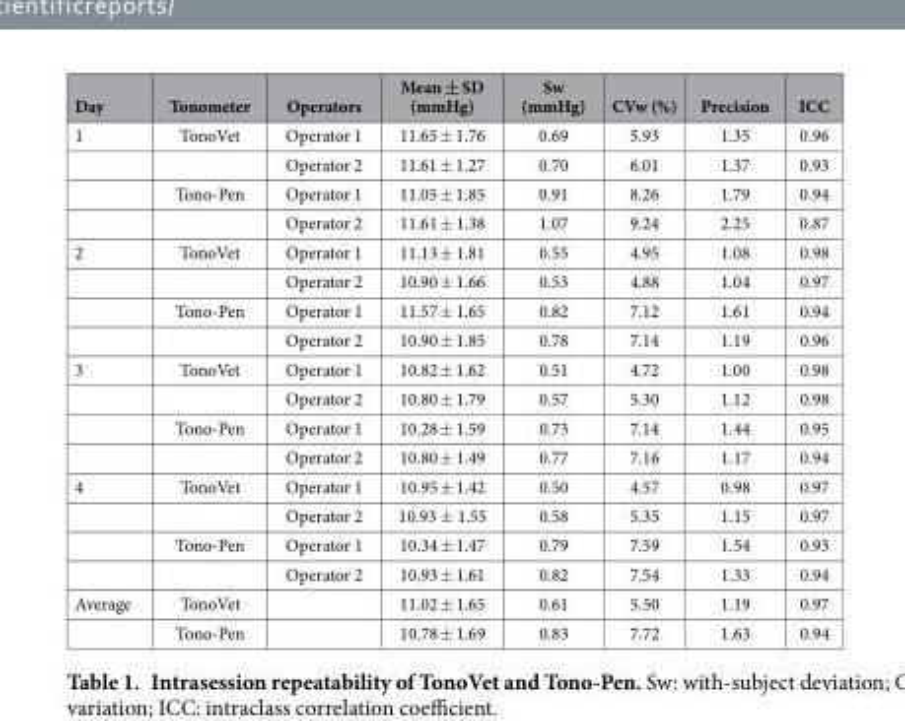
<table><thead><tr><td>Day</td><td>Tonometer</td><td>Operators</td><td>Mean ± SD (mmHg)</td><td>Sw (mmHg)</td><td>CVw (%)</td><td>Precision</td><td>ICC</td></tr></thead><tbody><tr><td rowspan="4">1</td><td>TonoVet</td><td>Operator 1</td><td>11.65 ± 1.76</td><td>0.69</td><td>5.93</td><td>1.35</td><td>0.96</td></tr><tr><td></td><td>Operator 2</td><td>11.61 ± 1.27</td><td>0.70</td><td>6.01</td><td>1.37</td><td>0.93</td></tr><tr><td>Tono-Pen</td><td>Operator 1</td><td>11.05 ± 1.85</td><td>0.91</td><td>8.26</td><td>1.79</td><td>0.94</td></tr><tr><td></td><td>Operator 2</td><td>11.61 ± 1.38</td><td>1.07</td><td>9.24</td><td>2.25</td><td>0.87</td></tr><tr><td rowspan="4">2</td><td>TonoVet</td><td>Operator 1</td><td>11.13 ± 1.81</td><td>0.55</td><td>4.95</td><td>1.08</td><td>0.98</td></tr><tr><td></td><td>Operator 2</td><td>10.90 ± 1.66</td><td>0.53</td><td>4.88</td><td>1.04</td><td>0.97</td></tr><tr><td>Tono-Pen</td><td>Operator 1</td><td>11.57 ± 1.65</td><td>0.82</td><td>7.12</td><td>1.61</td><td>0.94</td></tr><tr><td></td><td>Operator 2</td><td>10.90 ± 1.85</td><td>0.78</td><td>7.14</td><td>1.19</td><td>0.96</td></tr><tr><td rowspan="4">3</td><td>TonoVet</td><td>Operator 1</td><td>10.82 ± 1.62</td><td>0.51</td><td>4.72</td><td>1.00</td><td>0.98</td></tr><tr><td></td><td>Operator 2</td><td>10.80 ± 1.79</td><td>0.57</td><td>5.30</td><td>1.12</td><td>0.98</td></tr><tr><td>Tono-Pen</td><td>Operator 1</td><td>10.28 ± 1.59</td><td>0.73</td><td>7.14</td><td>1.44</td><td>0.95</td></tr><tr><td></td><td>Operator 2</td><td>10.80 ± 1.49</td><td>0.77</td><td>7.16</td><td>1.17</td><td>0.94</td></tr><tr><td rowspan="4">4</td><td>TonoVet</td><td>Operator 1</td><td>10.95 ± 1.42</td><td>0.50</td><td>4.57</td><td>0.98</td><td>0.97</td></tr><tr><td></td><td>Operator 2</td><td>10.93 ± 1.55</td><td>0.58</td><td>5.35</td><td>1.15</td><td>0.97</td></tr><tr><td>Tono-Pen</td><td>Operator 1</td><td>10.34 ± 1.47</td><td>0.79</td><td>7.59</td><td>1.54</td><td>0.93</td></tr><tr><td></td><td>Operator 2</td><td>10.93 ± 1.61</td><td>0.82</td><td>7.54</td><td>1.33</td><td>0.94</td></tr><tr><td rowspan="2">Average</td><td>TonoVet</td><td></td><td>11.02 ± 1.65</td><td>0.61</td><td>5.50</td><td>1.19</td><td>0.97</td></tr><tr><td>Tono-Pen</td><td></td><td>10.78 ± 1.69</td><td>0.83</td><td>7.72</td><td>1.63</td><td>0.94</td></tr></tbody></table>